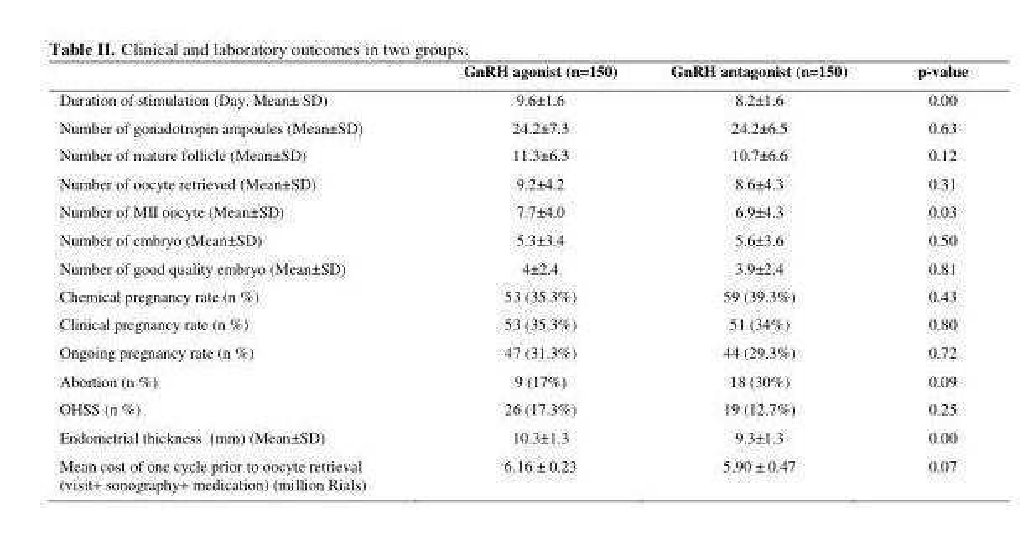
<table><thead><tr><td></td><td>GnRH agonist (n=150)</td><td>GnRH antagonist (n=150)</td><td>p-value</td></tr></thead><tbody><tr><td>Duration of stimulation (Day, Mean± SD)</td><td>9.6±1.6</td><td>8.2±1.6</td><td>0.00</td></tr><tr><td>Number of gonadotropin ampoules (Mean±SD)</td><td>24.2±7.3</td><td>24.2±6.5</td><td>0.63</td></tr><tr><td>Number of mature follicle (Mean±SD)</td><td>11.3±6.3</td><td>10.7±6.6</td><td>0.12</td></tr><tr><td>Number of oocyte retrieved (Mean±SD)</td><td>9.2±4.2</td><td>8.6±4.3</td><td>0.31</td></tr><tr><td>Number of MII oocyte (Mean±SD)</td><td>7.7±4.0</td><td>6.9±4.3</td><td>0.03</td></tr><tr><td>Number of embryo (Mean±SD)</td><td>5.3±3.4</td><td>5.6±3.6</td><td>0.50</td></tr><tr><td>Number of good quality embryo (Mean±SD)</td><td>4±2.4</td><td>3.9±2.4</td><td>0.81</td></tr><tr><td>Chemical pregnancy rate (n %)</td><td>53 (35.3%)</td><td>59 (39.3%)</td><td>0.43</td></tr><tr><td>Clinical pregnancy rate (n %)</td><td>53 (35.3%)</td><td>51 (34%)</td><td>0.80</td></tr><tr><td>Ongoing pregnancy rate (n %)</td><td>47 (31.3%)</td><td>44 (29.3%)</td><td>0.72</td></tr><tr><td>Abortion (n %)</td><td>9 (17%)</td><td>18 (30%)</td><td>0.09</td></tr><tr><td>OHSS (n %)</td><td>26 (17.3%)</td><td>19 (12.7%)</td><td>0.25</td></tr><tr><td>Endometrial thickness (mm) (Mean±SD)</td><td>10.3±1.3</td><td>9.3±1.3</td><td>0.00</td></tr><tr><td>Mean cost of one cycle prior to oocyte retrieval (visit+ sonography+ medication) (million Rials)</td><td>6.16 ± 0.23</td><td>5.90 ± 0.47</td><td>0.07</td></tr></tbody></table>